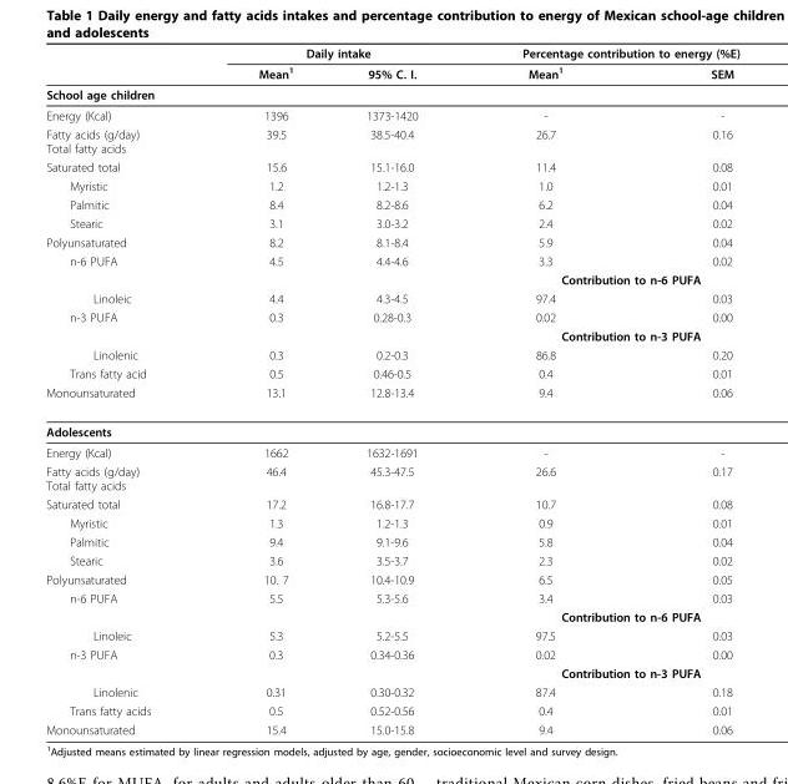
<table><thead><tr><td rowspan="2"></td><td colspan="2">Daily intake</td><td colspan="2">Percentage contribution to energy (%E)</td></tr><tr><td>Mean<sup>1</sup></td><td>95% C. I.</td><td>Mean<sup>1</sup></td><td>SEM</td></tr></thead><tbody><tr><td colspan="5">School age children</td></tr><tr><td>Energy (Kcal)</td><td>1396</td><td>1373-1420</td><td>-</td><td>-</td></tr><tr><td>Fatty acids (g/day) Total fatty acids</td><td>39.5</td><td>38.5-40.4</td><td>26.7</td><td>0.16</td></tr><tr><td>Saturated total</td><td>15.6</td><td>15.1-16.0</td><td>11.4</td><td>0.08</td></tr><tr><td>Myristic</td><td>1.2</td><td>1.2-1.3</td><td>1.0</td><td>0.01</td></tr><tr><td>Palmitic</td><td>8.4</td><td>8.2-8.6</td><td>6.2</td><td>0.04</td></tr><tr><td>Stearic</td><td>3.1</td><td>3.0-3.2</td><td>2.4</td><td>0.02</td></tr><tr><td>Polyunsaturated</td><td>8.2</td><td>8.1-8.4</td><td>5.9</td><td>0.04</td></tr><tr><td rowspan="2">n-6 PUFA</td><td>4.5</td><td>4.4-4.6</td><td>3.3</td><td>0.02</td></tr><tr><td></td><td></td><td colspan="2">Contribution to n-6 PUFA</td></tr><tr><td>Linoleic</td><td>4.4</td><td>4.3-4.5</td><td>97.4</td><td>0.03</td></tr><tr><td rowspan="2">n-3 PUFA</td><td>0.3</td><td>0.28-0.3</td><td>0.02</td><td>0.00</td></tr><tr><td></td><td></td><td colspan="2">Contribution to n-3 PUFA</td></tr><tr><td>Linolenic</td><td>0.3</td><td>0.2-0.3</td><td>86.8</td><td>0.20</td></tr><tr><td>Trans fatty acid</td><td>0.5</td><td>0.46-0.5</td><td>0.4</td><td>0.01</td></tr><tr><td>Monounsaturated</td><td>13.1</td><td>12.8-13.4</td><td>9.4</td><td>0.06</td></tr><tr><td colspan="5">Adolescents</td></tr><tr><td>Energy (Kcal)</td><td>1662</td><td>1632-1691</td><td>-</td><td>-</td></tr><tr><td>Fatty acids (g/day) Total fatty acids</td><td>46.4</td><td>45.3-47.5</td><td>26.6</td><td>0.17</td></tr><tr><td>Saturated total</td><td>17.2</td><td>16.8-17.7</td><td>10.7</td><td>0.08</td></tr><tr><td>Myristic</td><td>1.3</td><td>1.2-1.3</td><td>0.9</td><td>0.01</td></tr><tr><td>Palmitic</td><td>9.4</td><td>9.1-9.6</td><td>5.8</td><td>0.04</td></tr><tr><td>Stearic</td><td>3.6</td><td>3.5-3.7</td><td>2.3</td><td>0.02</td></tr><tr><td>Polyunsaturated</td><td>10. 7</td><td>10.4-10.9</td><td>6.5</td><td>0.05</td></tr><tr><td rowspan="2">n-6 PUFA</td><td>5.5</td><td>5.3-5.6</td><td>3.4</td><td>0.03</td></tr><tr><td></td><td></td><td colspan="2">Contribution to n-6 PUFA</td></tr><tr><td>Linoleic</td><td>5.3</td><td>5.2-5.5</td><td>97.5</td><td>0.03</td></tr><tr><td rowspan="2">n-3 PUFA</td><td>0.3</td><td>0.34-0.36</td><td>0.02</td><td>0.00</td></tr><tr><td></td><td></td><td colspan="2">Contribution to n-3 PUFA</td></tr><tr><td>Linolenic</td><td>0.31</td><td>0.30-0.32</td><td>87.4</td><td>0.18</td></tr><tr><td>Trans fatty acids</td><td>0.5</td><td>0.52-0.56</td><td>0.4</td><td>0.01</td></tr><tr><td>Monounsaturated</td><td>15.4</td><td>15.0-15.8</td><td>9.4</td><td>0.06</td></tr></tbody></table>